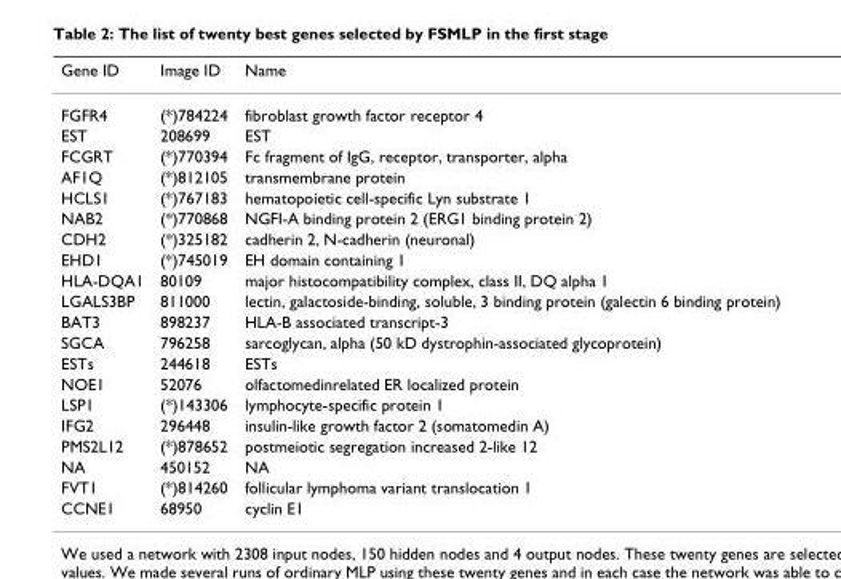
<table><thead><tr><td>Gene ID</td><td>Image ID</td><td>Name</td></tr></thead><tbody><tr><td>FGFR4</td><td>(*)784224</td><td>fibroblast growth factor receptor 4</td></tr><tr><td>EST</td><td>208699</td><td>EST</td></tr><tr><td>FCGRT</td><td>(*)770394</td><td>Fc fragment of IgG, receptor, transporter, alpha</td></tr><tr><td>AF1Q</td><td>(*)812105</td><td>transmembrane protein</td></tr><tr><td>HCLS1</td><td>(*)767183</td><td>hematopoietic cell-specific Lyn substrate 1</td></tr><tr><td>NAB2</td><td>(*)770868</td><td>NGFI-A binding protein 2 (ERG1 binding protein 2)</td></tr><tr><td>CDH2</td><td>(*)325182</td><td>cadherin 2, N-cadherin (neuronal)</td></tr><tr><td>EHD1</td><td>(*)745019</td><td>EH domain containing 1</td></tr><tr><td>HLA-DQA1</td><td>80109</td><td>major histocompatibility complex, class II, DQ alpha 1</td></tr><tr><td>LGALS3BP</td><td>811000</td><td>lectin, galactoside-binding, soluble, 3 binding protein (galectin 6 binding protein)</td></tr><tr><td>BAT3</td><td>898237</td><td>HLA-B associated transcript-3</td></tr><tr><td>SGCA</td><td>796258</td><td>sarcoglycan, alpha (50 kD dystrophin-associated glycoprotein)</td></tr><tr><td>ESTs</td><td>244618</td><td>ESTs</td></tr><tr><td>NOE1</td><td>52076</td><td>olfactomedinrelated ER localized protein</td></tr><tr><td>LSP1</td><td>(*)143306</td><td>lymphocyte-specific protein 1</td></tr><tr><td>IFG2</td><td>296448</td><td>insulin-like growth factor 2 (somatomedin A)</td></tr><tr><td>PMS2L12</td><td>(*)878652</td><td>postmeiotic segregation increased 2-like 12</td></tr><tr><td>NA</td><td>450152</td><td>NA</td></tr><tr><td>FVT1</td><td>(*)814260</td><td>follicular lymphoma variant translocation 1</td></tr><tr><td>CCNE1</td><td>68950</td><td>cyclin E1</td></tr></tbody></table>